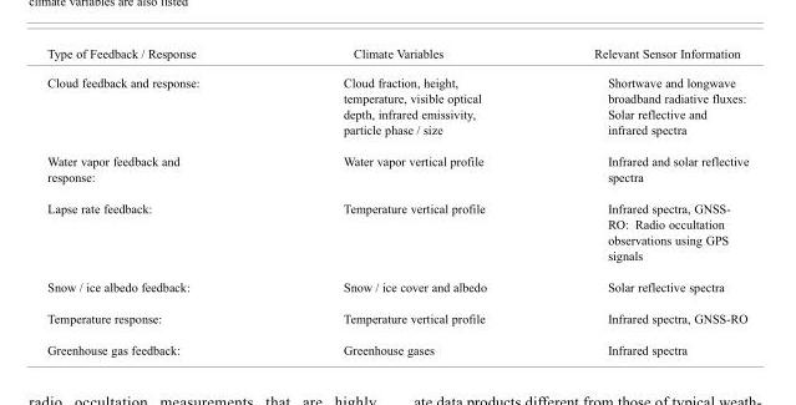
<table><thead><tr><td>Type of Feedback / Response</td><td>Climate Variables</td><td>Relevant Sensor Information</td></tr></thead><tbody><tr><td>Cloud feedback and response:</td><td>Cloud fraction, height, temperature, visible optical depth, infrared emissivity, particle phase / size</td><td>Shortwave and longwave broadband radiative fluxes: Solar reflective and infrared spectra</td></tr><tr><td>Water vapor feedback and response:</td><td>Water vapor vertical profile</td><td>Infrared and solar reflective spectra</td></tr><tr><td>Lapse rate feedback:</td><td>Temperature vertical profile</td><td>Infrared spectra, GNSS- RO: Radio occultation observations using GPS signals</td></tr><tr><td>Snow / ice albedo feedback:</td><td>Snow / ice cover and albedo</td><td>Solar reflective spectra</td></tr><tr><td>Temperature response:</td><td>Temperature vertical profile</td><td>Infrared spectra, GNSS-RO</td></tr><tr><td>Greenhouse gas feedback:</td><td>Greenhouse gases</td><td>Infrared spectra</td></tr></tbody></table>